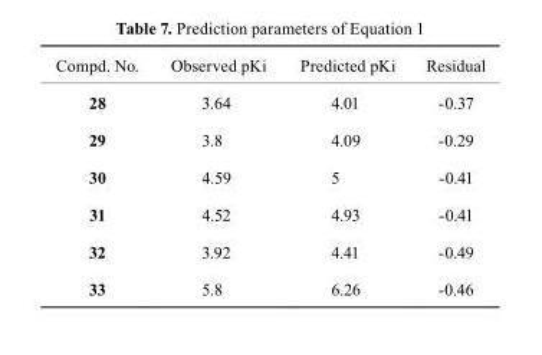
<table><thead><tr><td>Compd. No.</td><td>Observed pKi</td><td>Predicted pKi</td><td>Residual</td></tr></thead><tbody><tr><td>28</td><td>3.64</td><td>4.01</td><td>-0.37</td></tr><tr><td>29</td><td>3.8</td><td>4.09</td><td>-0.29</td></tr><tr><td>30</td><td>4.59</td><td>5</td><td>-0.41</td></tr><tr><td>31</td><td>4.52</td><td>4.93</td><td>-0.41</td></tr><tr><td>32</td><td>3.92</td><td>4.41</td><td>-0.49</td></tr><tr><td>33</td><td>5.8</td><td>6.26</td><td>-0.46</td></tr></tbody></table>